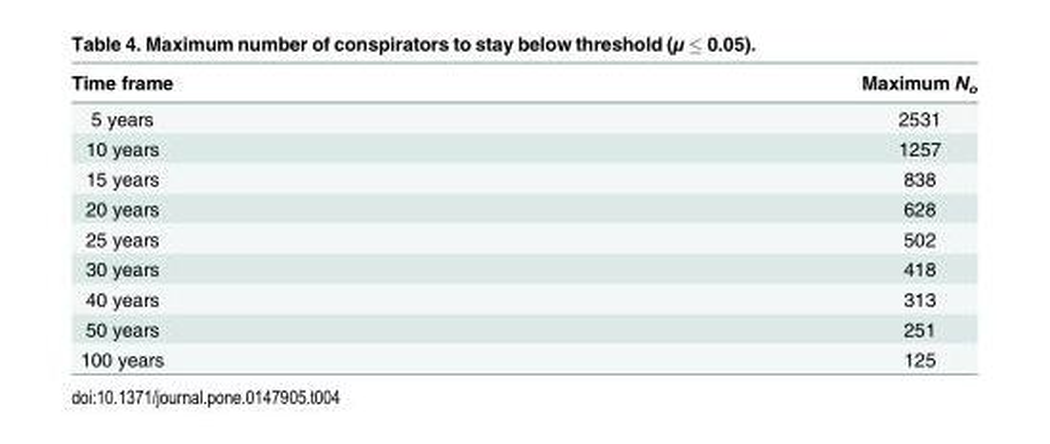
<table><thead><tr><td>Time frame</td><td>Maximum N<sub>o</sub></td></tr></thead><tbody><tr><td>5 years</td><td>2531</td></tr><tr><td>10 years</td><td>1257</td></tr><tr><td>15 years</td><td>838</td></tr><tr><td>20 years</td><td>628</td></tr><tr><td>25 years</td><td>502</td></tr><tr><td>30 years</td><td>418</td></tr><tr><td>40 years</td><td>313</td></tr><tr><td>50 years</td><td>251</td></tr><tr><td>100 years</td><td>125</td></tr></tbody></table>